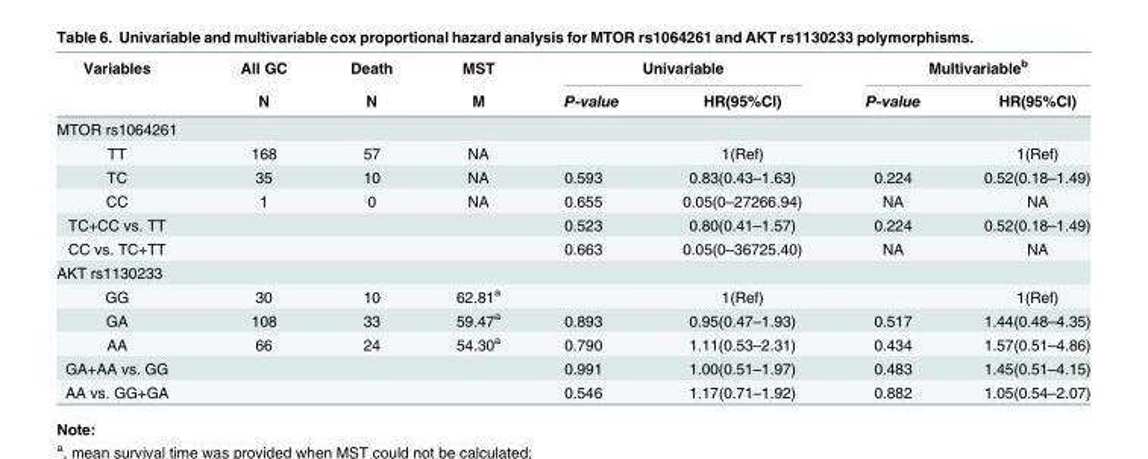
<table><thead><tr><td rowspan="2">Variables</td><td rowspan="2">All GC N</td><td rowspan="2">Death N</td><td rowspan="2">MST M</td><td colspan="2">Univariable</td><td colspan="2">Multivariable<sup>b</sup></td></tr><tr><td>P-value</td><td>HR(95%CI)</td><td>P-value</td><td>HR(95%CI)</td></tr></thead><tbody><tr><td colspan="8">MTOR rs1064261</td></tr><tr><td>TT</td><td>168</td><td>57</td><td>NA</td><td></td><td>1(Ref)</td><td></td><td>1(Ref)</td></tr><tr><td>TC</td><td>35</td><td>10</td><td>NA</td><td>0.593</td><td>0.83(0.43–1.63)</td><td>0.224</td><td>0.52(0.18–1.49)</td></tr><tr><td>CC</td><td>1</td><td>0</td><td>NA</td><td>0.655</td><td>0.05(0–27266.94)</td><td>NA</td><td>NA</td></tr><tr><td>TC+CC vs. TT</td><td></td><td></td><td></td><td>0.523</td><td>0.80(0.41–1.57)</td><td>0.224</td><td>0.52(0.18–1.49)</td></tr><tr><td>CC vs. TC+TT</td><td></td><td></td><td></td><td>0.663</td><td>0.05(0–36725.40)</td><td>NA</td><td>NA</td></tr><tr><td colspan="8">AKT rs1130233</td></tr><tr><td>GG</td><td>30</td><td>10</td><td>62.81<sup>a</sup></td><td></td><td>1(Ref)</td><td></td><td>1(Ref)</td></tr><tr><td>GA</td><td>108</td><td>33</td><td>59.47<sup>a</sup></td><td>0.893</td><td>0.95(0.47–1.93)</td><td>0.517</td><td>1.44(0.48–4.35)</td></tr><tr><td>AA</td><td>66</td><td>24</td><td>54.30<sup>a</sup></td><td>0.790</td><td>1.11(0.53–2.31)</td><td>0.434</td><td>1.57(0.51–4.86)</td></tr><tr><td>GA+AA vs. GG</td><td></td><td></td><td></td><td>0.991</td><td>1.00(0.51–1.97)</td><td>0.483</td><td>1.45(0.51–4.15)</td></tr><tr><td>AA vs. GG+GA</td><td></td><td></td><td></td><td>0.546</td><td>1.17(0.71–1.92)</td><td>0.882</td><td>1.05(0.54–2.07)</td></tr></tbody></table>